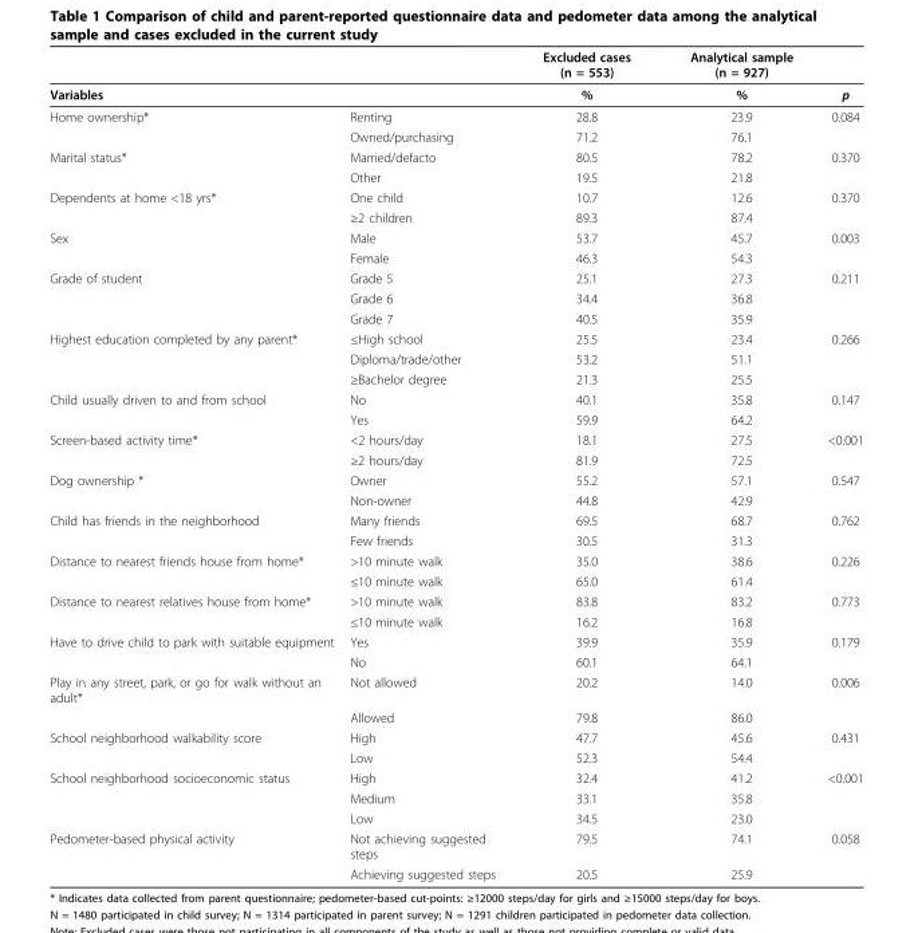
<table><thead><tr><td></td><td></td><td>Excluded cases (n = 553)</td><td>Analytical sample (n = 927)</td><td></td></tr></thead><tbody><tr><td colspan="2">Variables</td><td>%</td><td>%</td><td>p</td></tr><tr><td rowspan="2">Home ownership*</td><td>Renting</td><td>28.8</td><td>23.9</td><td>0.084</td></tr><tr><td>Owned/purchasing</td><td>71.2</td><td>76.1</td><td></td></tr><tr><td rowspan="2">Marital status*</td><td>Married/defacto</td><td>80.5</td><td>78.2</td><td>0.370</td></tr><tr><td>Other</td><td>19.5</td><td>21.8</td><td></td></tr><tr><td rowspan="2">Dependents at home &lt;18 yrs*</td><td>One child</td><td>10.7</td><td>12.6</td><td>0.370</td></tr><tr><td>≥2 children</td><td>89.3</td><td>87.4</td><td></td></tr><tr><td rowspan="2">Sex</td><td>Male</td><td>53.7</td><td>45.7</td><td>0.003</td></tr><tr><td>Female</td><td>46.3</td><td>54.3</td><td></td></tr><tr><td rowspan="3">Grade of student</td><td>Grade 5</td><td>25.1</td><td>27.3</td><td>0.211</td></tr><tr><td>Grade 6</td><td>34.4</td><td>36.8</td><td></td></tr><tr><td>Grade 7</td><td>40.5</td><td>35.9</td><td></td></tr><tr><td rowspan="3">Highest education completed by any parent*</td><td>≤High school</td><td>25.5</td><td>23.4</td><td>0.266</td></tr><tr><td>Diploma/trade/other</td><td>53.2</td><td>51.1</td><td></td></tr><tr><td>≥Bachelor degree</td><td>21.3</td><td>25.5</td><td></td></tr><tr><td rowspan="2">Child usually driven to and from school</td><td>No</td><td>40.1</td><td>35.8</td><td>0.147</td></tr><tr><td>Yes</td><td>59.9</td><td>64.2</td><td></td></tr><tr><td rowspan="2">Screen-based activity time*</td><td>&lt;2 hours/day</td><td>18.1</td><td>27.5</td><td>&lt;0.001</td></tr><tr><td>≥2 hours/day</td><td>81.9</td><td>72.5</td><td></td></tr><tr><td rowspan="2">Dog ownership *</td><td>Owner</td><td>55.2</td><td>57.1</td><td>0.547</td></tr><tr><td>Non-owner</td><td>44.8</td><td>42.9</td><td></td></tr><tr><td rowspan="2">Child has friends in the neighborhood</td><td>Many friends</td><td>69.5</td><td>68.7</td><td>0.762</td></tr><tr><td>Few friends</td><td>30.5</td><td>31.3</td><td></td></tr><tr><td rowspan="2">Distance to nearest friends house from home*</td><td>&gt;10 minute walk</td><td>35.0</td><td>38.6</td><td>0.226</td></tr><tr><td>≤10 minute walk</td><td>65.0</td><td>61.4</td><td></td></tr><tr><td rowspan="2">Distance to nearest relatives house from home*</td><td>&gt;10 minute walk</td><td>83.8</td><td>83.2</td><td>0.773</td></tr><tr><td>≤10 minute walk</td><td>16.2</td><td>16.8</td><td></td></tr><tr><td rowspan="2">Have to drive child to park with suitable equipment</td><td>Yes</td><td>39.9</td><td>35.9</td><td>0.179</td></tr><tr><td>No</td><td>60.1</td><td>64.1</td><td></td></tr><tr><td rowspan="2">Play in any street, park, or go for walk without an adult*</td><td>Not allowed</td><td>20.2</td><td>14.0</td><td>0.006</td></tr><tr><td>Allowed</td><td>79.8</td><td>86.0</td><td></td></tr><tr><td rowspan="2">School neighborhood walkability score</td><td>High</td><td>47.7</td><td>45.6</td><td>0.431</td></tr><tr><td>Low</td><td>52.3</td><td>54.4</td><td></td></tr><tr><td rowspan="3">School neighborhood socioeconomic status</td><td>High</td><td>32.4</td><td>41.2</td><td>&lt;0.001</td></tr><tr><td>Medium</td><td>33.1</td><td>35.8</td><td></td></tr><tr><td>Low</td><td>34.5</td><td>23.0</td><td></td></tr><tr><td rowspan="2">Pedometer-based physical activity</td><td>Not achieving suggested steps</td><td>79.5</td><td>74.1</td><td>0.058</td></tr><tr><td>Achieving suggested steps</td><td>20.5</td><td>25.9</td><td></td></tr></tbody></table>